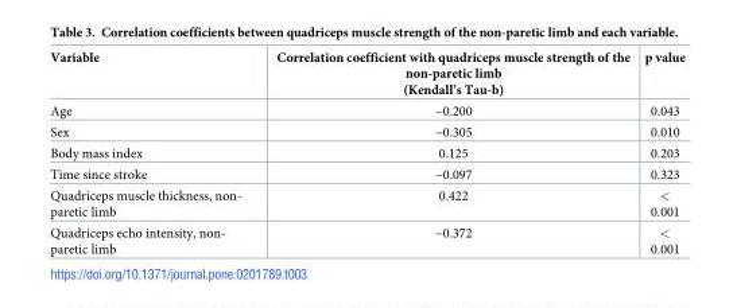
<table><thead><tr><td>Variable</td><td>Correlation coefficient with quadriceps muscle strength of the non-paretic limb (Kendall’s Tau-b)</td><td>p value</td></tr></thead><tbody><tr><td>Age</td><td>−0.200</td><td>0.043</td></tr><tr><td>Sex</td><td>−0.305</td><td>0.010</td></tr><tr><td>Body mass index</td><td>0.125</td><td>0.203</td></tr><tr><td>Time since stroke</td><td>−0.097</td><td>0.323</td></tr><tr><td>Quadriceps muscle thickness, non- paretic limb</td><td>0.422</td><td>&lt; 0.001</td></tr><tr><td>Quadriceps echo intensity, non- paretic limb</td><td>−0.372</td><td>&lt; 0.001</td></tr></tbody></table>